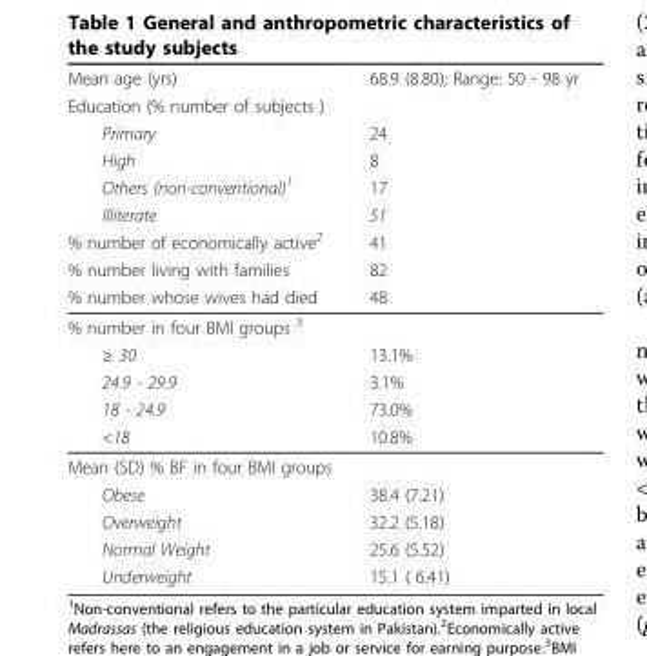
<table><thead><tr><td rowspan="9">Mean age (yrs) Education (% number of subjects ) Primary High Others (non-conventional)1 Illiterate % number of economically active2 % number living with families % number whose wives had died</td><td rowspan="9">68.9 (8.80); Range: 50 - 98 yr 24 8 17 51 41 82 48</td></tr><tr></tr><tr></tr><tr></tr><tr></tr><tr></tr><tr></tr><tr></tr><tr></tr></thead><tbody><tr><td colspan="2">% number in four BMI groups <sup>3</sup></td></tr><tr><td>≥ 30</td><td>13.1%</td></tr><tr><td>24.9 - 29.9</td><td>3.1%</td></tr><tr><td>18 - 24.9</td><td>73.0%</td></tr><tr><td>&lt;18</td><td>10.8%</td></tr><tr><td colspan="2">Mean (SD) % BF in four BMI groups</td></tr><tr><td>Obese</td><td>38.4 (7.21)</td></tr><tr><td>Overweight</td><td>32.2 (5.18)</td></tr><tr><td>Normal Weight</td><td>25.6 (5.52)</td></tr><tr><td>Underweight</td><td>15.1 ( 6.41)</td></tr></tbody></table>